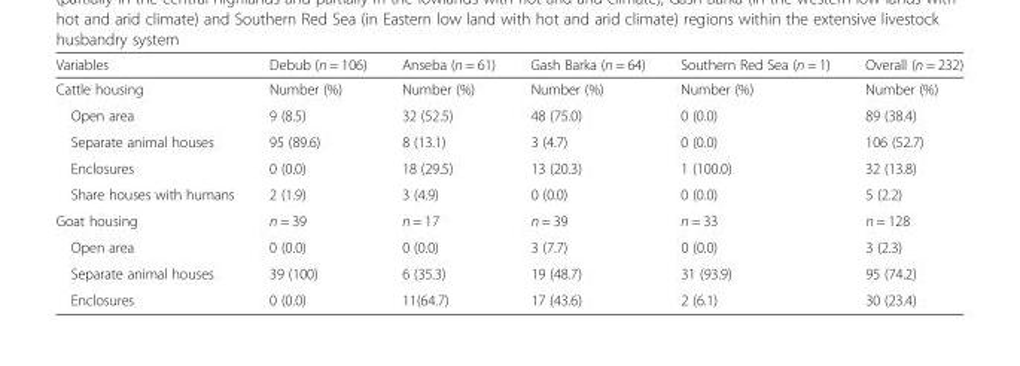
<table><thead><tr><td>Variables</td><td>Debub (n = 106)</td><td>Anseba (n = 61)</td><td>Gash Barka (n = 64)</td><td>Southern Red Sea (n = 1)</td><td>Overall (n = 232)</td></tr></thead><tbody><tr><td>Cattle housing</td><td>Number (%)</td><td>Number (%)</td><td>Number (%)</td><td>Number (%)</td><td>Number (%)</td></tr><tr><td>Open area</td><td>9 (8.5)</td><td>32 (52.5)</td><td>48 (75.0)</td><td>0 (0.0)</td><td>89 (38.4)</td></tr><tr><td>Separate animal houses</td><td>95 (89.6)</td><td>8 (13.1)</td><td>3 (4.7)</td><td>0 (0.0)</td><td>106 (52.7)</td></tr><tr><td>Enclosures</td><td>0 (0.0)</td><td>18 (29.5)</td><td>13 (20.3)</td><td>1 (100.0)</td><td>32 (13.8)</td></tr><tr><td>Share houses with humans</td><td>2 (1.9)</td><td>3 (4.9)</td><td>0 (0.0)</td><td>0 (0.0)</td><td>5 (2.2)</td></tr><tr><td>Goat housing</td><td>n = 39</td><td>n = 17</td><td>n = 39</td><td>n = 33</td><td>n = 128</td></tr><tr><td>Open area</td><td>0 (0.0)</td><td>0 (0.0)</td><td>3 (7.7)</td><td>0 (0.0)</td><td>3 (2.3)</td></tr><tr><td>Separate animal houses</td><td>39 (100)</td><td>6 (35.3)</td><td>19 (48.7)</td><td>31 (93.9)</td><td>95 (74.2)</td></tr><tr><td>Enclosures</td><td>0 (0.0)</td><td>11(64.7)</td><td>17 (43.6)</td><td>2 (6.1)</td><td>30 (23.4)</td></tr></tbody></table>